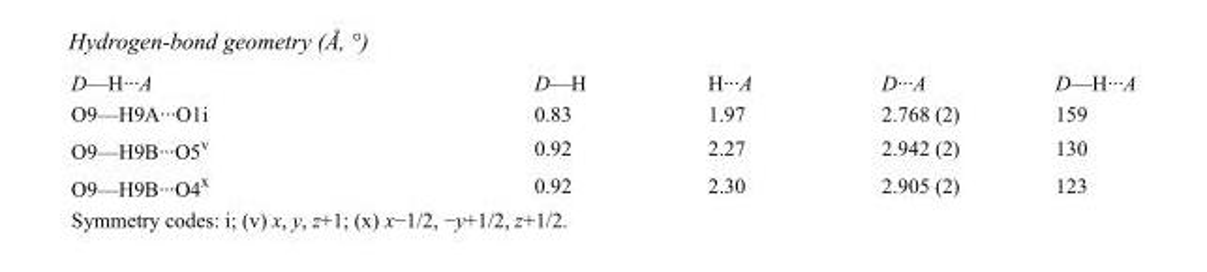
<table><tbody><tr><td>D—H···A</td><td>D—H</td><td>H···A</td><td>D···A</td><td>D—H···A</td></tr><tr><td>O9—H9A···O1i</td><td>0.83</td><td>1.97</td><td>2.768 (2)</td><td>159</td></tr><tr><td>O9—H9B···O5<sup>v</sup></td><td>0.92</td><td>2.27</td><td>2.942 (2)</td><td>130</td></tr><tr><td>O9—H9B···O4<sup>x</sup></td><td>0.92</td><td>2.30</td><td>2.905 (2)</td><td>123</td></tr></tbody></table>